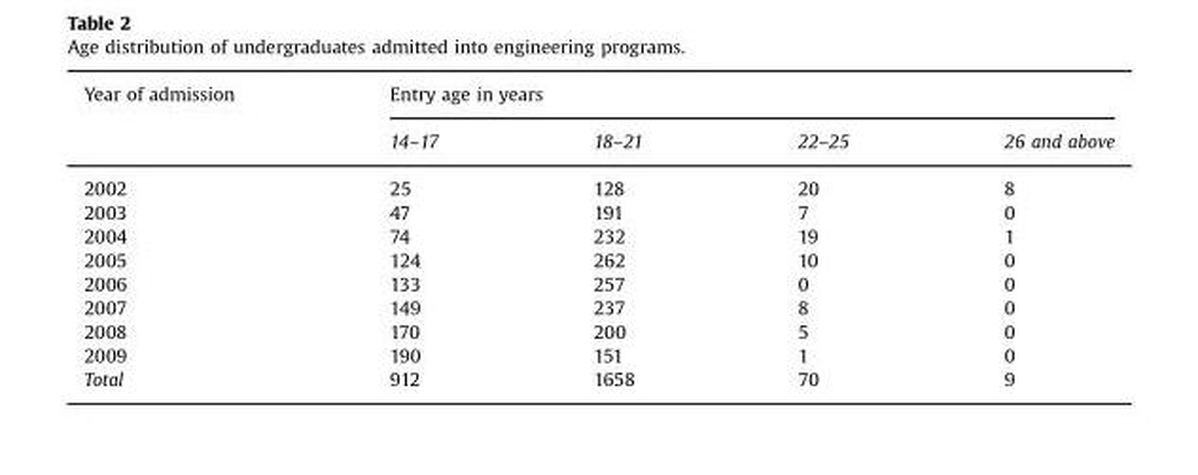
<table><thead><tr><td rowspan="2">Year of admission</td><td colspan="4">Entry age in years</td></tr><tr><td>14–17</td><td>18–21</td><td>22–25</td><td>26 and above</td></tr></thead><tbody><tr><td>2002</td><td>25</td><td>128</td><td>20</td><td>8</td></tr><tr><td>2003</td><td>47</td><td>191</td><td>7</td><td>0</td></tr><tr><td>2004</td><td>74</td><td>232</td><td>19</td><td>1</td></tr><tr><td>2005</td><td>124</td><td>262</td><td>10</td><td>0</td></tr><tr><td>2006</td><td>133</td><td>257</td><td>0</td><td>0</td></tr><tr><td>2007</td><td>149</td><td>237</td><td>8</td><td>0</td></tr><tr><td>2008</td><td>170</td><td>200</td><td>5</td><td>0</td></tr><tr><td>2009</td><td>190</td><td>151</td><td>1</td><td>0</td></tr><tr><td>Total</td><td>912</td><td>1658</td><td>70</td><td>9</td></tr></tbody></table>